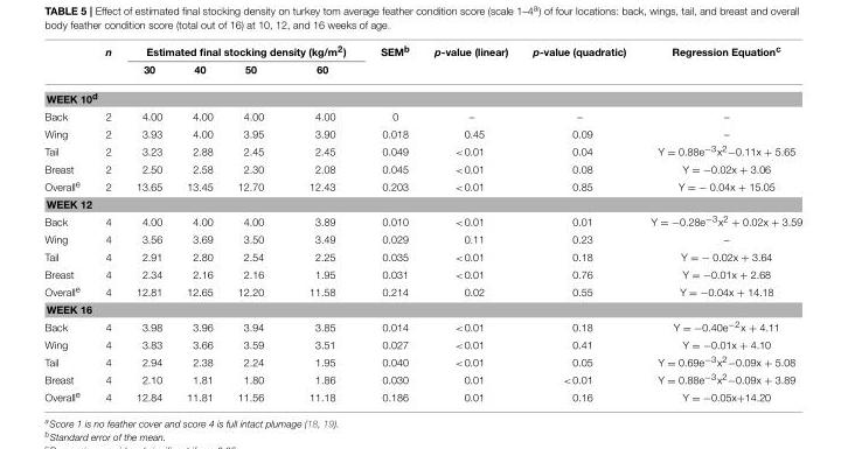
<table><thead><tr><td rowspan="2"></td><td rowspan="2">n</td><td colspan="4">Estimated final stocking density (kg/m<sup>2</sup>)</td><td rowspan="2">SEM<sup>b</sup></td><td rowspan="2">p-value (linear)</td><td rowspan="2">p-value (quadratic)</td><td rowspan="2">Regression Equation<sup>c</sup></td></tr><tr><td>30</td><td>40</td><td>50</td><td>60</td></tr></thead><tbody><tr><td colspan="10">WEEK 10<sup>d</sup></td></tr><tr><td>Back</td><td>2</td><td>4.00</td><td>4.00</td><td>4.00</td><td>4.00</td><td>0</td><td>–</td><td>–</td><td>–</td></tr><tr><td>Wing</td><td>2</td><td>3.93</td><td>4.00</td><td>3.95</td><td>3.90</td><td>0.018</td><td>0.45</td><td>0.09</td><td>–</td></tr><tr><td>Tail</td><td>2</td><td>3.23</td><td>2.88</td><td>2.45</td><td>2.45</td><td>0.049</td><td>&lt;0.01</td><td>0.04</td><td>Y = 0.88e<sup>−3</sup>x<sup>2</sup>−0.11x + 5.65</td></tr><tr><td>Breast</td><td>2</td><td>2.50</td><td>2.58</td><td>2.30</td><td>2.08</td><td>0.045</td><td>&lt;0.01</td><td>0.08</td><td>Y = −0.02x + 3.06</td></tr><tr><td>Overall<sup>e</sup></td><td>2</td><td>13.65</td><td>13.45</td><td>12.70</td><td>12.43</td><td>0.203</td><td>&lt;0.01</td><td>0.85</td><td>Y = − 0.04x + 15.05</td></tr><tr><td colspan="10">WEEK 12</td></tr><tr><td>Back</td><td>4</td><td>4.00</td><td>4.00</td><td>4.00</td><td>3.89</td><td>0.010</td><td>&lt;0.01</td><td>0.01</td><td>Y = −0.28e<sup>−3</sup>x<sup>2</sup> + 0.02x + 3.59</td></tr><tr><td>Wing</td><td>4</td><td>3.56</td><td>3.69</td><td>3.50</td><td>3.49</td><td>0.029</td><td>0.11</td><td>0.23</td><td>–</td></tr><tr><td>Tail</td><td>4</td><td>2.91</td><td>2.80</td><td>2.54</td><td>2.25</td><td>0.035</td><td>&lt;0.01</td><td>0.18</td><td>Y = − 0.02x + 3.64</td></tr><tr><td>Breast</td><td>4</td><td>2.34</td><td>2.16</td><td>2.16</td><td>1.95</td><td>0.031</td><td>&lt;0.01</td><td>0.76</td><td>Y = −0.01x + 2.68</td></tr><tr><td>Overall<sup>e</sup></td><td>4</td><td>12.81</td><td>12.65</td><td>12.20</td><td>11.58</td><td>0.214</td><td>0.02</td><td>0.55</td><td>Y = −0.04x + 14.18</td></tr><tr><td colspan="10">WEEK 16</td></tr><tr><td>Back</td><td>4</td><td>3.98</td><td>3.96</td><td>3.94</td><td>3.85</td><td>0.014</td><td>&lt;0.01</td><td>0.18</td><td>Y = −0.40e<sup>−2</sup>x + 4.11</td></tr><tr><td>Wing</td><td>4</td><td>3.83</td><td>3.66</td><td>3.59</td><td>3.51</td><td>0.027</td><td>&lt;0.01</td><td>0.41</td><td>Y = −0.01x + 4.10</td></tr><tr><td>Tail</td><td>4</td><td>2.94</td><td>2.38</td><td>2.24</td><td>1.95</td><td>0.040</td><td>&lt;0.01</td><td>0.05</td><td>Y = 0.69e<sup>−3</sup>x<sup>2</sup>−0.09x + 5.08</td></tr><tr><td>Breast</td><td>4</td><td>2.10</td><td>1.81</td><td>1.80</td><td>1.86</td><td>0.030</td><td>0.01</td><td>&lt;0.01</td><td>Y = 0.88e<sup>−3</sup>x<sup>2</sup>−0.09x + 3.89</td></tr><tr><td>Overall<sup>e</sup></td><td>4</td><td>12.84</td><td>11.81</td><td>11.56</td><td>11.18</td><td>0.186</td><td>0.01</td><td>0.16</td><td>Y = −0.05x+14.20</td></tr></tbody></table>